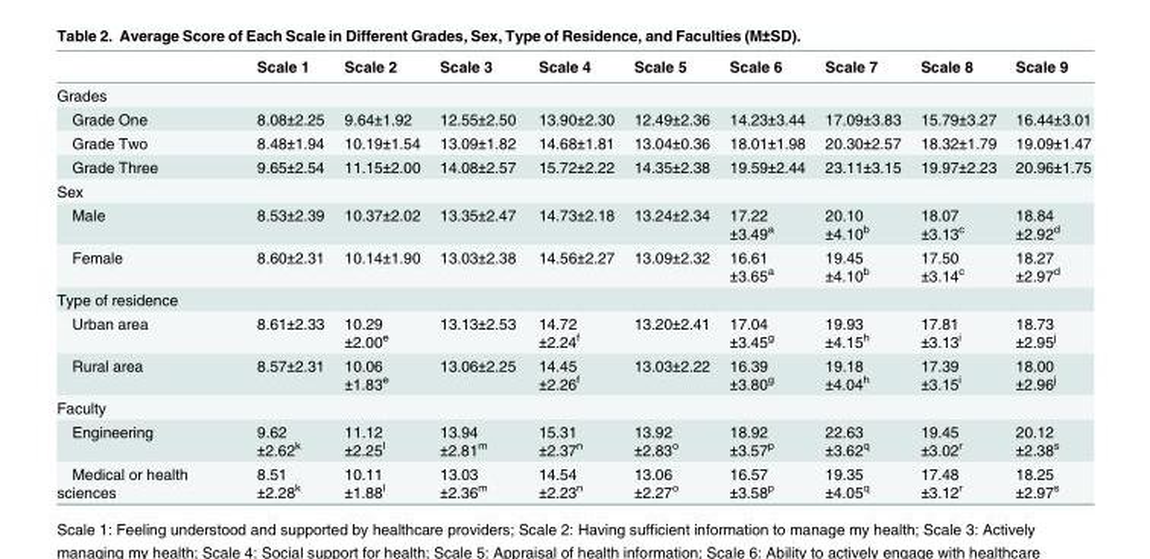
<table><thead><tr><td></td><td>Scale 1</td><td>Scale 2</td><td>Scale 3</td><td>Scale 4</td><td>Scale 5</td><td>Scale 6</td><td>Scale 7</td><td>Scale 8</td><td>Scale 9</td></tr></thead><tbody><tr><td colspan="10">Grades</td></tr><tr><td>Grade One</td><td>8.08±2.25</td><td>9.64±1.92</td><td>12.55±2.50</td><td>13.90±2.30</td><td>12.49±2.36</td><td>14.23±3.44</td><td>17.09±3.83</td><td>15.79±3.27</td><td>16.44±3.01</td></tr><tr><td>Grade Two</td><td>8.48±1.94</td><td>10.19±1.54</td><td>13.09±1.82</td><td>14.68±1.81</td><td>13.04±0.36</td><td>18.01±1.98</td><td>20.30±2.57</td><td>18.32±1.79</td><td>19.09±1.47</td></tr><tr><td>Grade Three</td><td>9.65±2.54</td><td>11.15±2.00</td><td>14.08±2.57</td><td>15.72±2.22</td><td>14.35±2.38</td><td>19.59±2.44</td><td>23.11±3.15</td><td>19.97±2.23</td><td>20.96±1.75</td></tr><tr><td colspan="10">Sex</td></tr><tr><td>Male</td><td>8.53±2.39</td><td>10.37±2.02</td><td>13.35±2.47</td><td>14.73±2.18</td><td>13.24±2.34</td><td>17.22 ±3.49<sup>a</sup></td><td>20.10 ±4.10<sup>b</sup></td><td>18.07 ±3.13<sup>c</sup></td><td>18.84 ±2.92<sup>d</sup></td></tr><tr><td>Female</td><td>8.60±2.31</td><td>10.14±1.90</td><td>13.03±2.38</td><td>14.56±2.27</td><td>13.09±2.32</td><td>16.61 ±3.65<sup>a</sup></td><td>19.45 ±4.10<sup>b</sup></td><td>17.50 ±3.14<sup>c</sup></td><td>18.27 ±2.97<sup>d</sup></td></tr><tr><td colspan="10">Type of residence</td></tr><tr><td>Urban area</td><td>8.61±2.33</td><td>10.29 ±2.00<sup>e</sup></td><td>13.13±2.53</td><td>14.72 ±2.24<sup>f</sup></td><td>13.20±2.41</td><td>17.04 ±3.45<sup>g</sup></td><td>19.93 ±4.15<sup>h</sup></td><td>17.81 ±3.13<sup>i</sup></td><td>18.73 ±2.95<sup>j</sup></td></tr><tr><td>Rural area</td><td>8.57±2.31</td><td>10.06 ±1.83<sup>e</sup></td><td>13.06±2.25</td><td>14.45 ±2.26<sup>f</sup></td><td>13.03±2.22</td><td>16.39 ±3.80<sup>g</sup></td><td>19.18 ±4.04<sup>h</sup></td><td>17.39 ±3.15<sup>i</sup></td><td>18.00 ±2.96<sup>j</sup></td></tr><tr><td colspan="10">Faculty</td></tr><tr><td>Engineering</td><td>9.62 ±2.62<sup>k</sup></td><td>11.12 ±2.25<sup>l</sup></td><td>13.94 ±2.81<sup>m</sup></td><td>15.31 ±2.37<sup>n</sup></td><td>13.92 ±2.83<sup>o</sup></td><td>18.92 ±3.57<sup>p</sup></td><td>22.63 ±3.62<sup>q</sup></td><td>19.45 ±3.02<sup>r</sup></td><td>20.12 ±2.38<sup>s</sup></td></tr><tr><td>Medical or health sciences</td><td>8.51 ±2.28<sup>k</sup></td><td>10.11 ±1.88<sup>l</sup></td><td>13.03 ±2.36<sup>m</sup></td><td>14.54 ±2.23<sup>n</sup></td><td>13.06 ±2.27<sup>o</sup></td><td>16.57 ±3.58<sup>p</sup></td><td>19.35 ±4.05<sup>q</sup></td><td>17.48 ±3.12<sup>r</sup></td><td>18.25 ±2.97<sup>s</sup></td></tr></tbody></table>